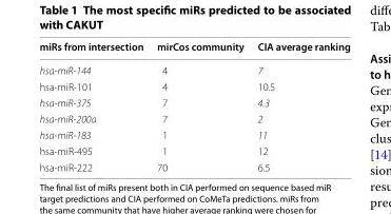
<table><thead><tr><td>miRs from intersection</td><td>mirCos community</td><td>CIA average ranking</td></tr></thead><tbody><tr><td>hsa-miR-144</td><td>4</td><td>7</td></tr><tr><td>hsa-miR-101</td><td>4</td><td>10.5</td></tr><tr><td>hsa-miR-375</td><td>7</td><td>4.3</td></tr><tr><td>hsa-miR-200a</td><td>7</td><td>2</td></tr><tr><td>hsa-miR-183</td><td>1</td><td>11</td></tr><tr><td>hsa-miR-495</td><td>1</td><td>12</td></tr><tr><td>hsa-miR-222</td><td>70</td><td>6.5</td></tr></tbody></table>